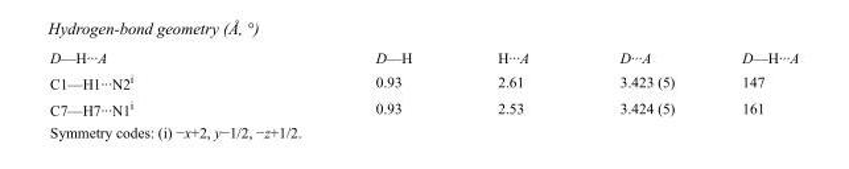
<table><tbody><tr><td>D—H···A</td><td>D—H</td><td>H···A</td><td>D···A</td><td>D—H···A</td></tr><tr><td>C1—H1···N2<sup>i</sup></td><td>0.93</td><td>2.61</td><td>3.423 (5)</td><td>147</td></tr><tr><td>C7—H7···N1<sup>i</sup></td><td>0.93</td><td>2.53</td><td>3.424 (5)</td><td>161</td></tr></tbody></table>